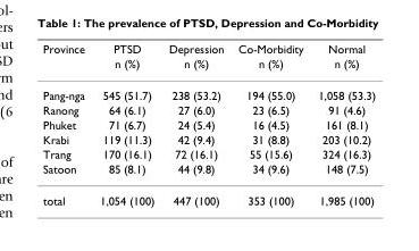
<table><thead><tr><td rowspan="2">Province</td><td rowspan="2">PTSD n (%)</td><td rowspan="2">Depression n (%)</td><td rowspan="2">Co-Morbidity n (%)</td><td rowspan="2">Normal n (%)</td></tr><tr></tr></thead><tbody><tr><td>Pang-nga</td><td>545 (51.7)</td><td>238 (53.2)</td><td>194 (55.0)</td><td>1,058 (53.3)</td></tr><tr><td>Ranong</td><td>64 (6.1)</td><td>27 (6.0)</td><td>23 (6.5)</td><td>91 (4.6)</td></tr><tr><td>Phuket</td><td>71 (6.7)</td><td>24 (5.4)</td><td>16 (4.5)</td><td>161 (8.1)</td></tr><tr><td>Krabi</td><td>119 (11.3)</td><td>42 (9.4)</td><td>31 (8.8)</td><td>203 (10.2)</td></tr><tr><td>Trang</td><td>170 (16.1)</td><td>72 (16.1)</td><td>55 (15.6)</td><td>324 (16.3)</td></tr><tr><td>Satoon</td><td>85 (8.1)</td><td>44 (9.8)</td><td>34 (9.6)</td><td>148 (7.5)</td></tr><tr><td>total</td><td>1,054 (100)</td><td>447 (100)</td><td>353 (100)</td><td>1,985 (100)</td></tr></tbody></table>